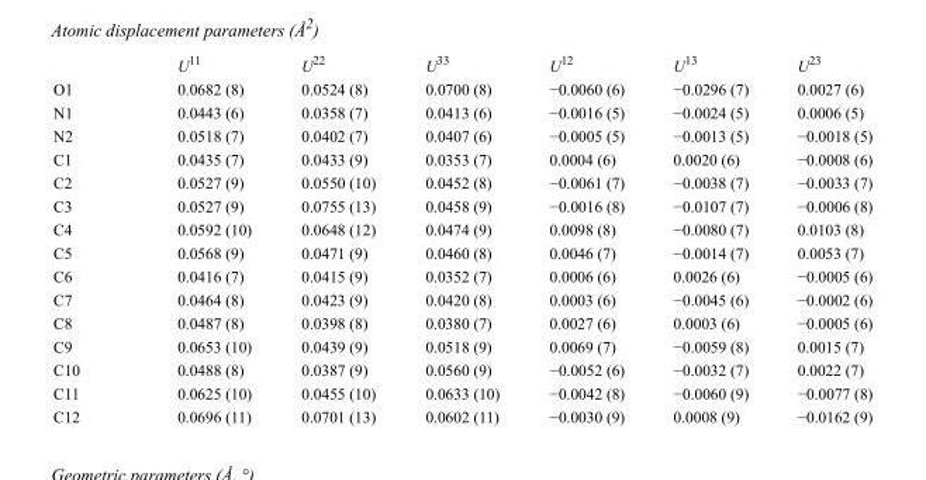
<table><thead><tr><td></td><td>U<sup>11</sup></td><td>U<sup>22</sup></td><td>U<sup>33</sup></td><td>U<sup>12</sup></td><td>U<sup>13</sup></td><td>U<sup>23</sup></td></tr></thead><tbody><tr><td>O1</td><td>0.0682 (8)</td><td>0.0524 (8)</td><td>0.0700 (8)</td><td>−0.0060 (6)</td><td>−0.0296 (7)</td><td>0.0027 (6)</td></tr><tr><td>N1</td><td>0.0443 (6)</td><td>0.0358 (7)</td><td>0.0413 (6)</td><td>−0.0016 (5)</td><td>−0.0024 (5)</td><td>0.0006 (5)</td></tr><tr><td>N2</td><td>0.0518 (7)</td><td>0.0402 (7)</td><td>0.0407 (6)</td><td>−0.0005 (5)</td><td>−0.0013 (5)</td><td>−0.0018 (5)</td></tr><tr><td>C1</td><td>0.0435 (7)</td><td>0.0433 (9)</td><td>0.0353 (7)</td><td>0.0004 (6)</td><td>0.0020 (6)</td><td>−0.0008 (6)</td></tr><tr><td>C2</td><td>0.0527 (9)</td><td>0.0550 (10)</td><td>0.0452 (8)</td><td>−0.0061 (7)</td><td>−0.0038 (7)</td><td>−0.0033 (7)</td></tr><tr><td>C3</td><td>0.0527 (9)</td><td>0.0755 (13)</td><td>0.0458 (9)</td><td>−0.0016 (8)</td><td>−0.0107 (7)</td><td>−0.0006 (8)</td></tr><tr><td>C4</td><td>0.0592 (10)</td><td>0.0648 (12)</td><td>0.0474 (9)</td><td>0.0098 (8)</td><td>−0.0080 (7)</td><td>0.0103 (8)</td></tr><tr><td>C5</td><td>0.0568 (9)</td><td>0.0471 (9)</td><td>0.0460 (8)</td><td>0.0046 (7)</td><td>−0.0014 (7)</td><td>0.0053 (7)</td></tr><tr><td>C6</td><td>0.0416 (7)</td><td>0.0415 (9)</td><td>0.0352 (7)</td><td>0.0006 (6)</td><td>0.0026 (6)</td><td>−0.0005 (6)</td></tr><tr><td>C7</td><td>0.0464 (8)</td><td>0.0423 (9)</td><td>0.0420 (8)</td><td>0.0003 (6)</td><td>−0.0045 (6)</td><td>−0.0002 (6)</td></tr><tr><td>C8</td><td>0.0487 (8)</td><td>0.0398 (8)</td><td>0.0380 (7)</td><td>0.0027 (6)</td><td>0.0003 (6)</td><td>−0.0005 (6)</td></tr><tr><td>C9</td><td>0.0653 (10)</td><td>0.0439 (9)</td><td>0.0518 (9)</td><td>0.0069 (7)</td><td>−0.0059 (8)</td><td>0.0015 (7)</td></tr><tr><td>C10</td><td>0.0488 (8)</td><td>0.0387 (9)</td><td>0.0560 (9)</td><td>−0.0052 (6)</td><td>−0.0032 (7)</td><td>0.0022 (7)</td></tr><tr><td>C11</td><td>0.0625 (10)</td><td>0.0455 (10)</td><td>0.0633 (10)</td><td>−0.0042 (8)</td><td>−0.0060 (9)</td><td>−0.0077 (8)</td></tr><tr><td>C12</td><td>0.0696 (11)</td><td>0.0701 (13)</td><td>0.0602 (11)</td><td>−0.0030 (9)</td><td>0.0008 (9)</td><td>−0.0162 (9)</td></tr></tbody></table>